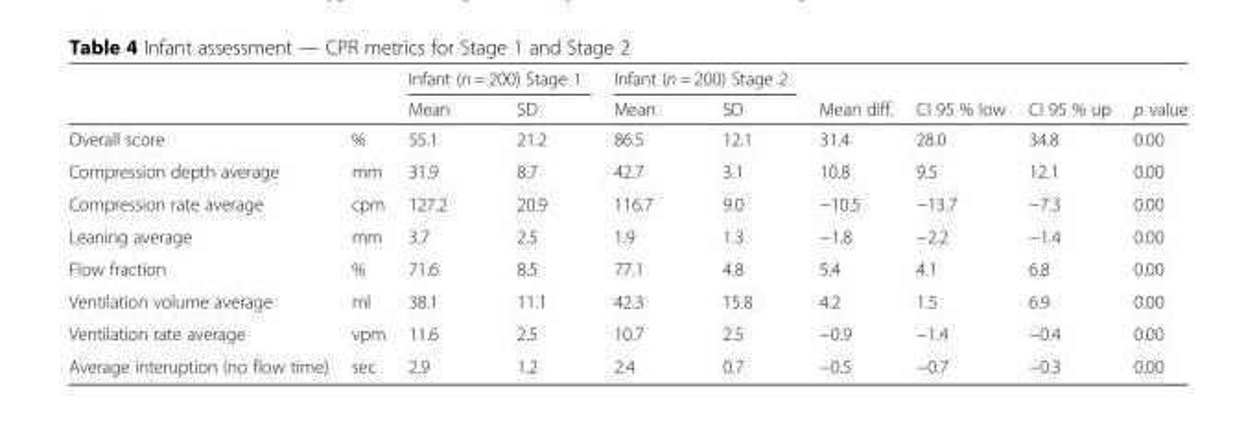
<table><thead><tr><td rowspan="2"></td><td rowspan="2"></td><td colspan="2">Infant (n = 200) Stage 1</td><td colspan="2">Infant (n = 200) Stage 2</td><td rowspan="2">Mean diff.</td><td rowspan="2">CI 95 % low</td><td rowspan="2">CI 95 % up</td><td rowspan="2">p value</td></tr><tr><td>Mean</td><td>SD</td><td>Mean</td><td>SD</td></tr></thead><tbody><tr><td>Overall score</td><td>%</td><td>55.1</td><td>21.2</td><td>86.5</td><td>12.1</td><td>31.4</td><td>28.0</td><td>34.8</td><td>0.00</td></tr><tr><td>Compression depth average</td><td>mm</td><td>31.9</td><td>8.7</td><td>42.7</td><td>3.1</td><td>10.8</td><td>9.5</td><td>12.1</td><td>0.00</td></tr><tr><td>Compression rate average</td><td>cpm</td><td>127.2</td><td>20.9</td><td>116.7</td><td>9.0</td><td>−10.5</td><td>−13.7</td><td>−7.3</td><td>0.00</td></tr><tr><td>Leaning average</td><td>mm</td><td>3.7</td><td>2.5</td><td>1.9</td><td>1.3</td><td>−1.8</td><td>−2.2</td><td>−1.4</td><td>0.00</td></tr><tr><td>Flow fraction</td><td>%</td><td>71.6</td><td>8.5</td><td>77.1</td><td>4.8</td><td>5.4</td><td>4.1</td><td>6.8</td><td>0.00</td></tr><tr><td>Ventilation volume average</td><td>ml</td><td>38.1</td><td>11.1</td><td>42.3</td><td>15.8</td><td>4.2</td><td>1.5</td><td>6.9</td><td>0.00</td></tr><tr><td>Ventilation rate average</td><td>vpm</td><td>11.6</td><td>2.5</td><td>10.7</td><td>2.5</td><td>−0.9</td><td>−1.4</td><td>−0.4</td><td>0.00</td></tr><tr><td>Average interuption (no flow time)</td><td>sec</td><td>2.9</td><td>1.2</td><td>2.4</td><td>0.7</td><td>−0.5</td><td>−0.7</td><td>−0.3</td><td>0.00</td></tr></tbody></table>